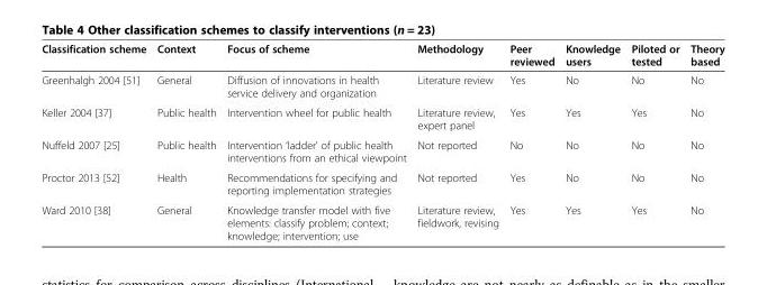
<table><thead><tr><td>Classification scheme</td><td>Context</td><td>Focus of scheme</td><td>Methodology</td><td>Peer reviewed</td><td>Knowledge users</td><td>Piloted or tested</td><td>Theory based</td></tr></thead><tbody><tr><td>Greenhalgh 2004 [51]</td><td>General</td><td>Diffusion of innovations in health service delivery and organization</td><td>Literature review</td><td>Yes</td><td>No</td><td>No</td><td>No</td></tr><tr><td>Keller 2004 [37]</td><td>Public health</td><td>Intervention wheel for public health</td><td>Literature review, expert panel</td><td>Yes</td><td>Yes</td><td>Yes</td><td>No</td></tr><tr><td>Nuffeld 2007 [25]</td><td>Public health</td><td>Intervention ‘ladder’ of public health interventions from an ethical viewpoint</td><td>Not reported</td><td>No</td><td>No</td><td>No</td><td>No</td></tr><tr><td>Proctor 2013 [52]</td><td>Health</td><td>Recommendations for specifying and reporting implementation strategies</td><td>Not reported</td><td>Yes</td><td>No</td><td>No</td><td>No</td></tr><tr><td>Ward 2010 [38]</td><td>General</td><td>Knowledge transfer model with five elements: classify problem; context; knowledge; intervention; use</td><td>Literature review, fieldwork, revising</td><td>Yes</td><td>Yes</td><td>Yes</td><td>No</td></tr></tbody></table>